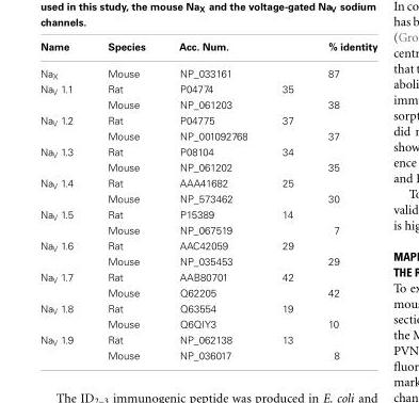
<table><thead><tr><td>Name</td><td>Species</td><td>Acc. Num.</td><td></td><td>% identity</td></tr></thead><tbody><tr><td>Na<sub>X</sub></td><td>Mouse</td><td>NP_033161</td><td></td><td>87</td></tr><tr><td rowspan="2">Na<sub>V</sub> 1.1</td><td>Rat</td><td>P04774</td><td>35</td><td></td></tr><tr><td>Mouse</td><td>NP_061203</td><td></td><td>38</td></tr><tr><td rowspan="2">Na<sub>V</sub> 1.2</td><td>Rat</td><td>P04775</td><td>37</td><td></td></tr><tr><td>Mouse</td><td>NP_001092768</td><td></td><td>37</td></tr><tr><td rowspan="2">Na<sub>V</sub> 1.3</td><td>Rat</td><td>P08104</td><td>34</td><td></td></tr><tr><td>Mouse</td><td>NP_061202</td><td></td><td>35</td></tr><tr><td rowspan="2">Na<sub>V</sub> 1.4</td><td>Rat</td><td>AAA41682</td><td>25</td><td></td></tr><tr><td>Mouse</td><td>NP_573462</td><td></td><td>30</td></tr><tr><td rowspan="2">Na<sub>V</sub> 1.5</td><td>Rat</td><td>P15389</td><td>14</td><td></td></tr><tr><td>Mouse</td><td>NP_067519</td><td></td><td>7</td></tr><tr><td rowspan="2">Na<sub>V</sub> 1.6</td><td>Rat</td><td>AAC42059</td><td>29</td><td></td></tr><tr><td>Mouse</td><td>NP_035453</td><td></td><td>29</td></tr><tr><td rowspan="2">Na<sub>V</sub> 1.7</td><td>Rat</td><td>AAB80701</td><td>42</td><td></td></tr><tr><td>Mouse</td><td>Q62205</td><td></td><td>42</td></tr><tr><td rowspan="2">Na<sub>V</sub> 1.8</td><td>Rat</td><td>Q63554</td><td>19</td><td></td></tr><tr><td>Mouse</td><td>Q6QIY3</td><td></td><td>10</td></tr><tr><td rowspan="2">Na<sub>V</sub> 1.9</td><td>Rat</td><td>NP_062138</td><td>13</td><td></td></tr><tr><td>Mouse</td><td>NP_036017</td><td></td><td>8</td></tr></tbody></table>